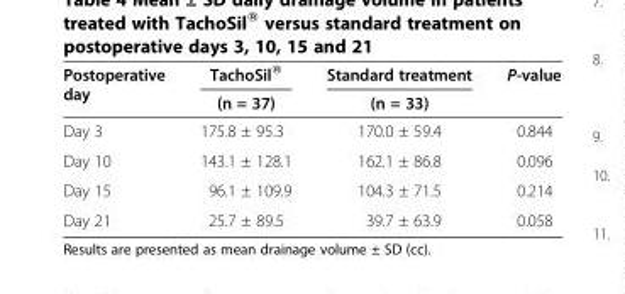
<table><thead><tr><td rowspan="2">Postoperative day</td><td rowspan="2">TachoSil<sup>®</sup> (n = 37)</td><td rowspan="2">Standard treatment (n = 33)</td><td rowspan="2">P-value</td></tr><tr></tr></thead><tbody><tr><td>Day 3</td><td>175.8 ± 95.3</td><td>170.0 ± 59.4</td><td>0.844</td></tr><tr><td>Day 10</td><td>143.1 ± 128.1</td><td>162.1 ± 86.8</td><td>0.096</td></tr><tr><td>Day 15</td><td>96.1 ± 109.9</td><td>104.3 ± 71.5</td><td>0.214</td></tr><tr><td>Day 21</td><td>25.7 ± 89.5</td><td>39.7 ± 63.9</td><td>0.058</td></tr></tbody></table>